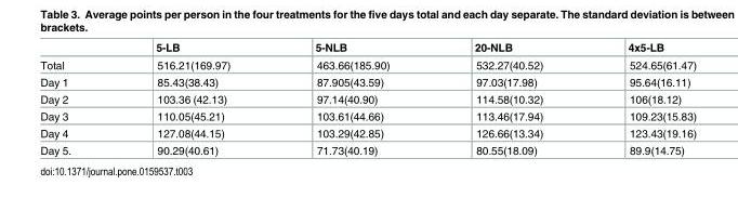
<table><thead><tr><td></td><td>5-LB</td><td>5-NLB</td><td>20-NLB</td><td>4x5-LB</td></tr></thead><tbody><tr><td>Total</td><td>516.21(169.97)</td><td>463.66(185.90)</td><td>532.27(40.52)</td><td>524.65(61.47)</td></tr><tr><td>Day 1</td><td>85.43(38.43)</td><td>87.905(43.59)</td><td>97.03(17.98)</td><td>95.64(16.11)</td></tr><tr><td>Day 2</td><td>103.36 (42.13)</td><td>97.14(40.90)</td><td>114.58(10.32)</td><td>106(18.12)</td></tr><tr><td>Day 3</td><td>110.05(45.21)</td><td>103.61(44.66)</td><td>113.46(17.94)</td><td>109.23(15.83)</td></tr><tr><td>Day 4</td><td>127.08(44.15)</td><td>103.29(42.85)</td><td>126.66(13.34)</td><td>123.43(19.16)</td></tr><tr><td>Day 5.</td><td>90.29(40.61)</td><td>71.73(40.19)</td><td>80.55(18.09)</td><td>89.9(14.75)</td></tr></tbody></table>